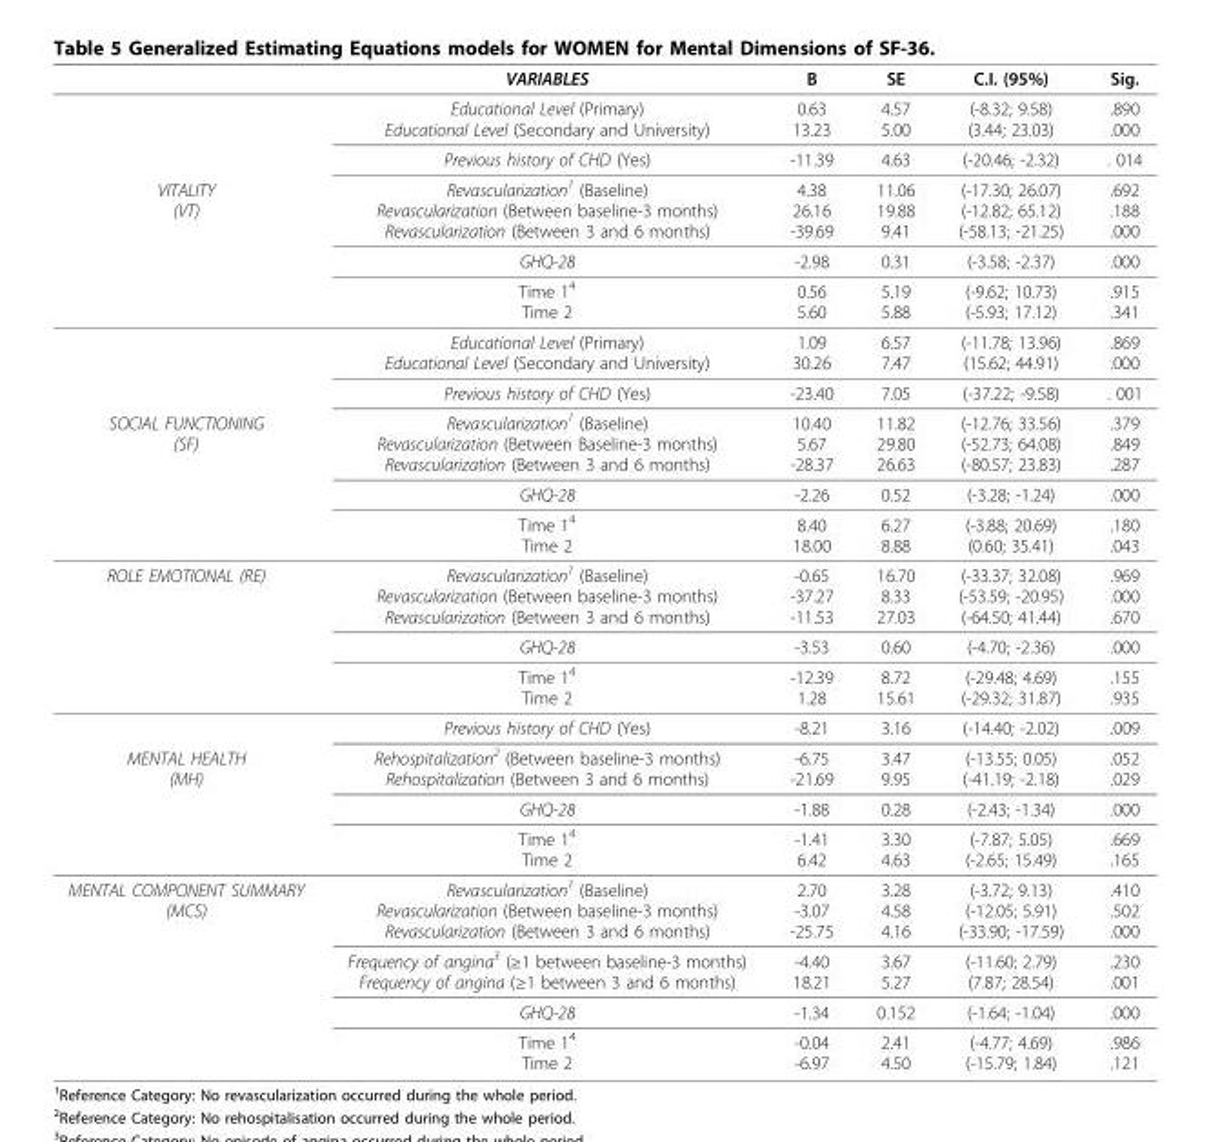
<table><thead><tr><td></td><td>VARIABLES</td><td>B</td><td>SE</td><td>C.I. (95%)</td><td>Sig.</td></tr></thead><tbody><tr><td></td><td>Educational Level (Primary) Educational Level (Secondary and University)</td><td>0.63 13.23</td><td>4.57 5.00</td><td>(-8.32; 9.58) (3.44; 23.03)</td><td>.890 .000</td></tr><tr><td></td><td>Previous history of CHD (Yes)</td><td>-11.39</td><td>4.63</td><td>(-20.46; -2.32)</td><td>. 014</td></tr><tr><td rowspan="5">VITALITY (VT)</td><td>Revascularization<sup>1</sup> (Baseline) Revascularization (Between baseline-3 months) Revascularization (Between 3 and 6 months)</td><td>4.38 26.16 -39.69</td><td>11.06 19.88 9.41</td><td>(-17.30; 26.07) (-12.82; 65.12) (-58.13; -21.25)</td><td>.692 .188 .000</td></tr><tr><td>GHQ-28</td><td>-2.98</td><td>0.31</td><td>(-3.58; -2.37)</td><td>.000</td></tr><tr><td>Time 1<sup>4</sup> Time 2</td><td>0.56 5.60</td><td>5.19 5.88</td><td>(-9.62; 10.73) (-5.93; 17.12)</td><td>.915 .341</td></tr><tr><td>Educational Level (Primary) Educational Level (Secondary and University)</td><td>1.09 30.26</td><td>6.57 7.47</td><td>(-11.78; 13.96) (15.62; 44.91)</td><td>.869 .000</td></tr><tr><td>Previous history of CHD (Yes)</td><td>-23.40</td><td>7.05</td><td>(-37.22; -9.58)</td><td>. 001</td></tr><tr><td rowspan="3">SOCIAL FUNCTIONING (SF)</td><td>Revascularization<sup>1</sup> (Baseline) Revascularization (Between Baseline-3 months) Revascularization (Between 3 and 6 months)</td><td>10.40 5.67 -28.37</td><td>11.82 29.80 26.63</td><td>(-12.76; 33.56) (-52.73; 64.08) (-80.57; 23.83)</td><td>.379 .849 .287</td></tr><tr><td>GHQ-28</td><td>-2.26</td><td>0.52</td><td>(-3.28; -1.24)</td><td>.000</td></tr><tr><td>Time 1<sup>4</sup> Time 2</td><td>8.40 18.00</td><td>6.27 8.88</td><td>(-3.88; 20.69) (0.60; 35.41)</td><td>.180 .043</td></tr><tr><td rowspan="4">ROLE EMOTIONAL (RE)</td><td>Revascularization<sup>1</sup> (Baseline) Revascularization (Between baseline-3 months) Revascularization (Between 3 and 6 months)</td><td>-0.65 -37.27 -11.53</td><td>16.70 8.33 27.03</td><td>(-33.37; 32.08) (-53.59; -20.95) (-64.50; 41.44)</td><td>.969 .000 .670</td></tr><tr><td>GHQ-28</td><td>-3.53</td><td>0.60</td><td>(-4.70; -2.36)</td><td>.000</td></tr><tr><td>Time 1<sup>4</sup> Time 2</td><td>-12.39 1.28</td><td>8.72 15.61</td><td>(-29.48; 4.69) (-29.32; 31.87)</td><td>.155 .935</td></tr><tr><td>Previous history of CHD (Yes)</td><td>-8.21</td><td>3.16</td><td>(-14.40; -2.02)</td><td>.009</td></tr><tr><td rowspan="3">MENTAL HEALTH (MH)</td><td>Rehospitalization<sup>2</sup> (Between baseline-3 months) Rehospitalization (Between 3 and 6 months)</td><td>-6.75 -21.69</td><td>3.47 9.95</td><td>(-13.55; 0.05) (-41.19; -2.18)</td><td>.052 .029</td></tr><tr><td>GHQ-28</td><td>-1.88</td><td>0.28</td><td>(-2.43; -1.34)</td><td>.000</td></tr><tr><td>Time 1<sup>4</sup> Time 2</td><td>-1.41 6.42</td><td>3.30 4.63</td><td>(-7.87; 5.05) (-2.65; 15.49)</td><td>.669 .165</td></tr><tr><td rowspan="4">MENTAL COMPONENT SUMMARY (MCS)</td><td>Revascularization<sup>1</sup> (Baseline) Revascularization (Between baseline-3 months) Revascularization (Between 3 and 6 months)</td><td>2.70 -3.07 -25.75</td><td>3.28 4.58 4.16</td><td>(-3.72; 9.13) (-12.05; 5.91) (-33.90; -17.59)</td><td>.410 .502 .000</td></tr><tr><td>Frequency of angina<sup>3</sup> (≥1 between baseline-3 months) Frequency of angina (≥1 between 3 and 6 months)</td><td>-4.40 18.21</td><td>3.67 5.27</td><td>(-11.60; 2.79) (7.87; 28.54)</td><td>.230 .001</td></tr><tr><td>GHQ-28</td><td>-1.34</td><td>0.152</td><td>(-1.64; -1.04)</td><td>.000</td></tr><tr><td>Time 1<sup>4</sup> Time 2</td><td>-0.04 -6.97</td><td>2.41 4.50</td><td>(-4.77; 4.69) (-15.79; 1.84)</td><td>.986 .121</td></tr></tbody></table>